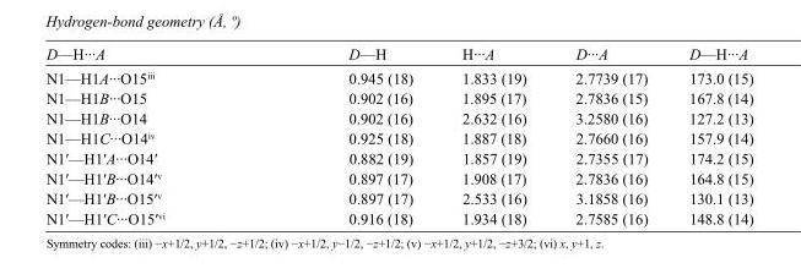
<table><tbody><tr><td>D—H···A</td><td>D—H</td><td>H···A</td><td>D···A</td><td>D—H···A</td></tr><tr><td>N1—H1A···O15<sup>iii</sup></td><td>0.945 (18)</td><td>1.833 (19)</td><td>2.7739 (17)</td><td>173.0 (15)</td></tr><tr><td>N1—H1B···O15</td><td>0.902 (16)</td><td>1.895 (17)</td><td>2.7836 (15)</td><td>167.8 (14)</td></tr><tr><td>N1—H1B···O14</td><td>0.902 (16)</td><td>2.632 (16)</td><td>3.2580 (16)</td><td>127.2 (13)</td></tr><tr><td>N1—H1C···O14<sup>iv</sup></td><td>0.925 (18)</td><td>1.887 (18)</td><td>2.7660 (16)</td><td>157.9 (14)</td></tr><tr><td>N1′—H1′A···O14′</td><td>0.882 (19)</td><td>1.857 (19)</td><td>2.7355 (17)</td><td>174.2 (15)</td></tr><tr><td>N1′—H1′B···O14′<sup>v</sup></td><td>0.897 (17)</td><td>1.908 (17)</td><td>2.7836 (16)</td><td>164.8 (15)</td></tr><tr><td>N1′—H1′B···O15′<sup>v</sup></td><td>0.897 (17)</td><td>2.533 (16)</td><td>3.1858 (16)</td><td>130.1 (13)</td></tr><tr><td>N1′—H1′C···O15′<sup>vi</sup></td><td>0.916 (18)</td><td>1.934 (18)</td><td>2.7585 (16)</td><td>148.8 (14)</td></tr></tbody></table>